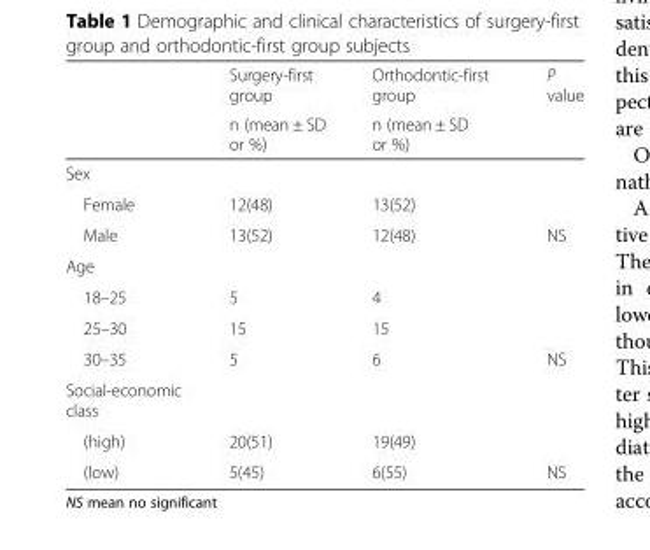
<table><thead><tr><td rowspan="2"></td><td rowspan="2">Surgery-first group n (mean ± SD or %)</td><td rowspan="2">Orthodontic-first group n (mean ± SD or %)</td><td rowspan="2">P value</td></tr><tr></tr></thead><tbody><tr><td colspan="4">Sex</td></tr><tr><td>Female</td><td>12(48)</td><td>13(52)</td><td></td></tr><tr><td>Male</td><td>13(52)</td><td>12(48)</td><td>NS</td></tr><tr><td colspan="4">Age</td></tr><tr><td>18–25</td><td>5</td><td>4</td><td></td></tr><tr><td>25–30</td><td>15</td><td>15</td><td></td></tr><tr><td>30–35</td><td>5</td><td>6</td><td>NS</td></tr><tr><td colspan="4">Social-economic class</td></tr><tr><td>(high)</td><td>20(51)</td><td>19(49)</td><td></td></tr><tr><td>(low)</td><td>5(45)</td><td>6(55)</td><td>NS</td></tr></tbody></table>